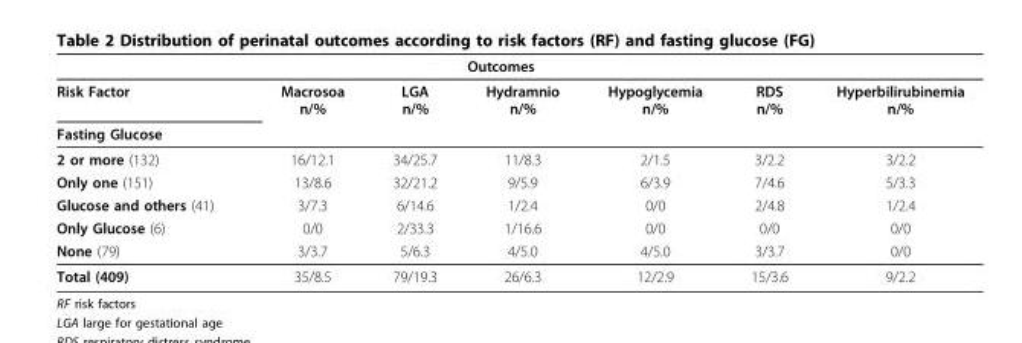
<table><thead><tr><td></td><td></td><td></td><td>Outcomes</td><td></td><td></td><td></td></tr></thead><tbody><tr><td>Risk Factor</td><td>Macrosoa n/%</td><td>LGA n/%</td><td>Hydramnio n/%</td><td>Hypoglycemia n/%</td><td>RDS n/%</td><td>Hyperbilirubinemia n/%</td></tr><tr><td colspan="7">Fasting Glucose</td></tr><tr><td>2 or more (132)</td><td>16/12.1</td><td>34/25.7</td><td>11/8.3</td><td>2/1.5</td><td>3/2.2</td><td>3/2.2</td></tr><tr><td>Only one (151)</td><td>13/8.6</td><td>32/21.2</td><td>9/5.9</td><td>6/3.9</td><td>7/4.6</td><td>5/3.3</td></tr><tr><td>Glucose and others (41)</td><td>3/7.3</td><td>6/14.6</td><td>1/2.4</td><td>0/0</td><td>2/4.8</td><td>1/2.4</td></tr><tr><td>Only Glucose (6)</td><td>0/0</td><td>2/33.3</td><td>1/16.6</td><td>0/0</td><td>0/0</td><td>0/0</td></tr><tr><td>None (79)</td><td>3/3.7</td><td>5/6.3</td><td>4/5.0</td><td>4/5.0</td><td>3/3.7</td><td>0/0</td></tr><tr><td>Total (409)</td><td>35/8.5</td><td>79/19.3</td><td>26/6.3</td><td>12/2.9</td><td>15/3.6</td><td>9/2.2</td></tr></tbody></table>